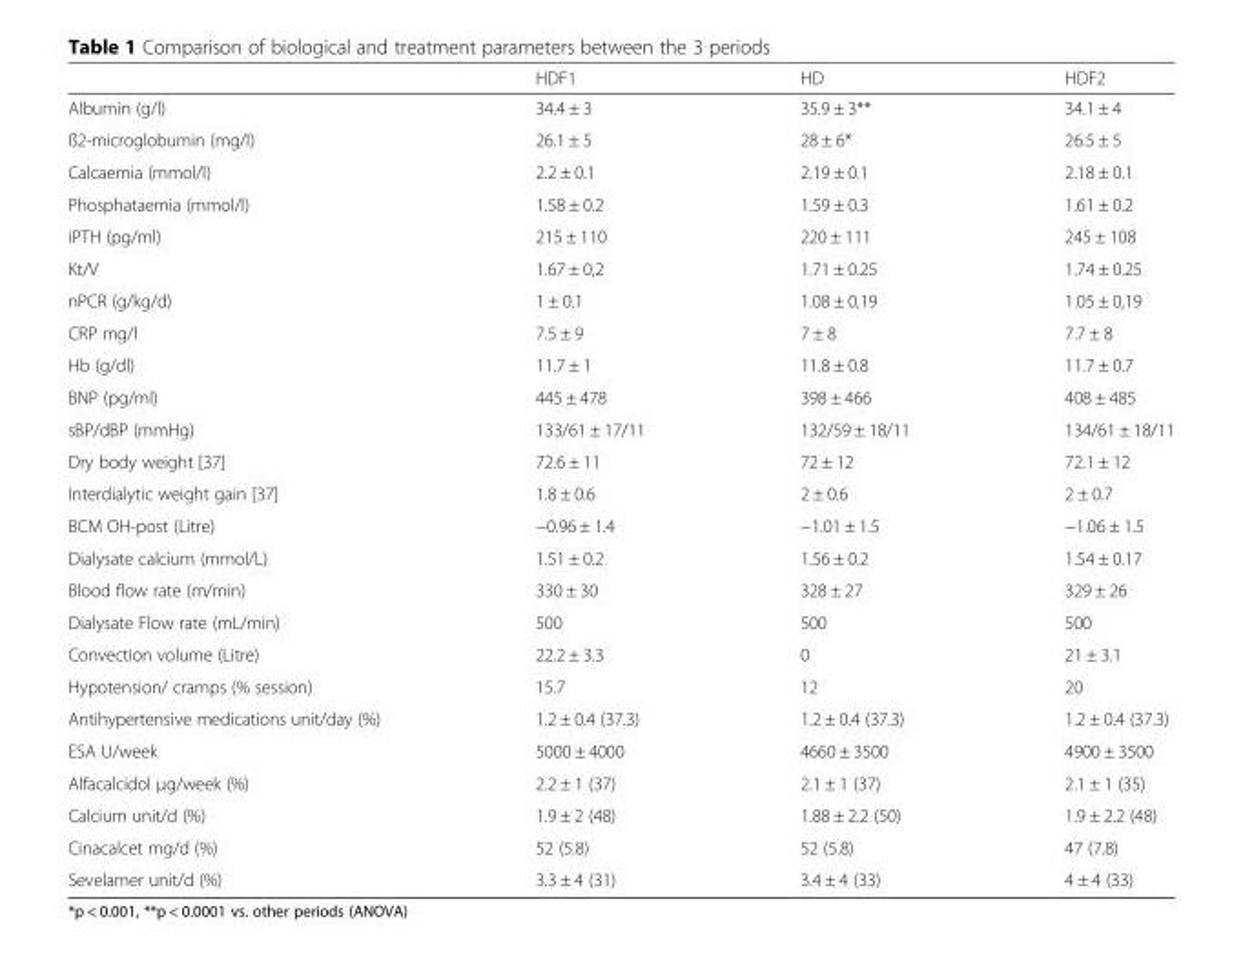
<table><thead><tr><td></td><td>HDF1</td><td>HD</td><td>HDF2</td></tr></thead><tbody><tr><td>Albumin (g/l)</td><td>34.4 ± 3</td><td>35.9 ± 3**</td><td>34.1 ± 4</td></tr><tr><td>ß2-microglobumin (mg/l)</td><td>26.1 ± 5</td><td>28 ± 6*</td><td>26.5 ± 5</td></tr><tr><td>Calcaemia (mmol/l)</td><td>2.2 ± 0.1</td><td>2.19 ± 0.1</td><td>2.18 ± 0.1</td></tr><tr><td>Phosphataemia (mmol/l)</td><td>1.58 ± 0.2</td><td>1.59 ± 0.3</td><td>1.61 ± 0.2</td></tr><tr><td>iPTH (pg/ml)</td><td>215 ± 110</td><td>220 ± 111</td><td>245 ± 108</td></tr><tr><td>Kt/V</td><td>1.67 ± 0,2</td><td>1.71 ± 0.25</td><td>1.74 ± 0.25</td></tr><tr><td>nPCR (g/kg/d)</td><td>1 ± 0.1</td><td>1.08 ± 0,19</td><td>1.05 ± 0,19</td></tr><tr><td>CRP mg/l</td><td>7.5 ± 9</td><td>7 ± 8</td><td>7.7 ± 8</td></tr><tr><td>Hb (g/dl)</td><td>11.7 ± 1</td><td>11.8 ± 0.8</td><td>11.7 ± 0.7</td></tr><tr><td>BNP (pg/ml)</td><td>445 ± 478</td><td>398 ± 466</td><td>408 ± 485</td></tr><tr><td>sBP/dBP (mmHg)</td><td>133/61 ± 17/11</td><td>132/59 ± 18/11</td><td>134/61 ± 18/11</td></tr><tr><td>Dry body weight [37]</td><td>72.6 ± 11</td><td>72 ± 12</td><td>72.1 ± 12</td></tr><tr><td>Interdialytic weight gain [37]</td><td>1.8 ± 0.6</td><td>2 ± 0.6</td><td>2 ± 0.7</td></tr><tr><td>BCM OH-post (Litre)</td><td>−0.96 ± 1.4</td><td>−1.01 ± 1.5</td><td>−1.06 ± 1.5</td></tr><tr><td>Dialysate calcium (mmol/L)</td><td>1.51 ± 0.2</td><td>1.56 ± 0.2</td><td>1.54 ± 0.17</td></tr><tr><td>Blood flow rate (m/min)</td><td>330 ± 30</td><td>328 ± 27</td><td>329 ± 26</td></tr><tr><td>Dialysate Flow rate (mL/min)</td><td>500</td><td>500</td><td>500</td></tr><tr><td>Convection volume (Litre)</td><td>22.2 ± 3.3</td><td>0</td><td>21 ± 3.1</td></tr><tr><td>Hypotension/ cramps (% session)</td><td>15.7</td><td>12</td><td>20</td></tr><tr><td>Antihypertensive medications unit/day (%)</td><td>1.2 ± 0.4 (37.3)</td><td>1.2 ± 0.4 (37.3)</td><td>1.2 ± 0.4 (37.3)</td></tr><tr><td>ESA U/week</td><td>5000 ± 4000</td><td>4660 ± 3500</td><td>4900 ± 3500</td></tr><tr><td>Alfacalcidol μg/week (%)</td><td>2.2 ± 1 (37)</td><td>2.1 ± 1 (37)</td><td>2.1 ± 1 (35)</td></tr><tr><td>Calcium unit/d (%)</td><td>1.9 ± 2 (48)</td><td>1.88 ± 2.2 (50)</td><td>1.9 ± 2.2 (48)</td></tr><tr><td>Cinacalcet mg/d (%)</td><td>52 (5.8)</td><td>52 (5.8)</td><td>47 (7.8)</td></tr><tr><td>Sevelamer unit/d (%)</td><td>3.3 ± 4 (31)</td><td>3.4 ± 4 (33)</td><td>4 ± 4 (33)</td></tr></tbody></table>